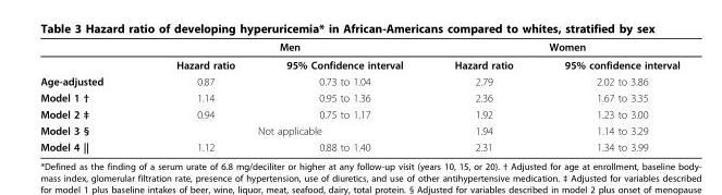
<table><thead><tr><td rowspan="2"></td><td colspan="2">Men</td><td colspan="2">Women</td></tr><tr><td>Hazard ratio</td><td>95% Confidence interval</td><td>Hazard ratio</td><td>95% confidence interval</td></tr></thead><tbody><tr><td>Age-adjusted</td><td>0.87</td><td>0.73 to 1.04</td><td>2.79</td><td>2.02 to 3.86</td></tr><tr><td>Model 1 †</td><td>1.14</td><td>0.95 to 1.36</td><td>2.36</td><td>1.67 to 3.35</td></tr><tr><td>Model 2 ‡</td><td>0.94</td><td>0.75 to 1.17</td><td>1.92</td><td>1.23 to 3.00</td></tr><tr><td>Model 3 §</td><td colspan="2">Not applicable</td><td>1.94</td><td>1.14 to 3.29</td></tr><tr><td>Model 4 ||</td><td>1.12</td><td>0.88 to 1.40</td><td>2.31</td><td>1.34 to 3.99</td></tr></tbody></table>